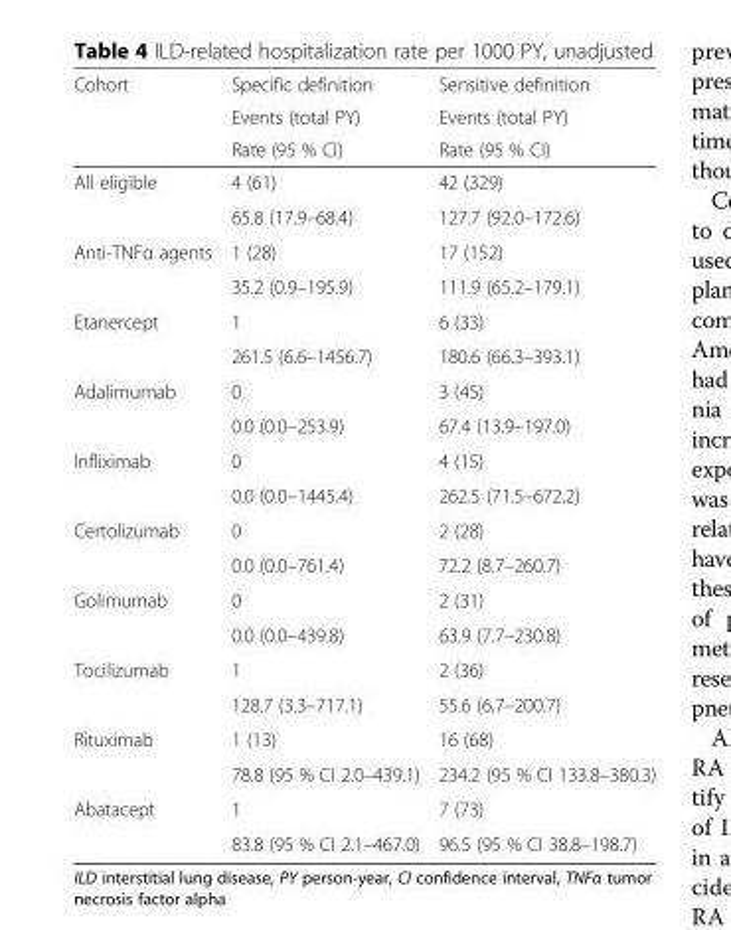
<table><thead><tr><td rowspan="3">Cohort</td><td rowspan="3">Specific definition Events (total PY) Rate (95 % CI)</td><td rowspan="3">Sensitive definition Events (total PY) Rate (95 % CI)</td></tr><tr></tr><tr></tr></thead><tbody><tr><td rowspan="2">All eligible</td><td>4 (61)</td><td>42 (329)</td></tr><tr><td>65.8 (17.9–68.4)</td><td>127.7 (92.0–172.6)</td></tr><tr><td rowspan="2">Anti-TNFα agents</td><td>1 (28)</td><td>17 (152)</td></tr><tr><td>35.2 (0.9–195.9)</td><td>111.9 (65.2–179.1)</td></tr><tr><td rowspan="2">Etanercept</td><td>1</td><td>6 (33)</td></tr><tr><td>261.5 (6.6–1456.7)</td><td>180.6 (66.3–393.1)</td></tr><tr><td rowspan="2">Adalimumab</td><td>0</td><td>3 (45)</td></tr><tr><td>0.0 (0.0–253.9)</td><td>67.4 (13.9–197.0)</td></tr><tr><td rowspan="2">Infliximab</td><td>0</td><td>4 (15)</td></tr><tr><td>0.0 (0.0–1445.4)</td><td>262.5 (71.5–672.2)</td></tr><tr><td rowspan="2">Certolizumab</td><td>0</td><td>2 (28)</td></tr><tr><td>0.0 (0.0–761.4)</td><td>72.2 (8.7–260.7)</td></tr><tr><td rowspan="2">Golimumab</td><td>0</td><td>2 (31)</td></tr><tr><td>0.0 (0.0–439.8)</td><td>63.9 (7.7–230.8)</td></tr><tr><td rowspan="2">Tocilizumab</td><td>1</td><td>2 (36)</td></tr><tr><td>128.7 (3.3–717.1)</td><td>55.6 (6.7–200.7)</td></tr><tr><td rowspan="2">Rituximab</td><td>1 (13)</td><td>16 (68)</td></tr><tr><td>78.8 (95 % CI 2.0–439.1)</td><td>234.2 (95 % CI 133.8–380.3)</td></tr><tr><td rowspan="2">Abatacept</td><td>1</td><td>7 (73)</td></tr><tr><td>83.8 (95 % CI 2.1–467.0)</td><td>96.5 (95 % CI 38.8–198.7)</td></tr></tbody></table>